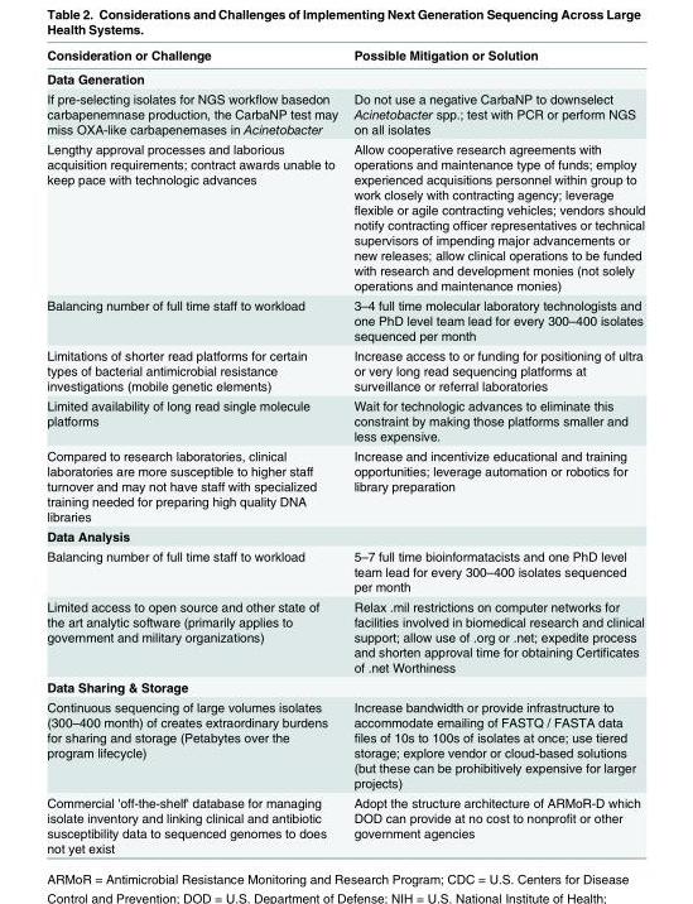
<table><thead><tr><td>Consideration or Challenge</td><td>Possible Mitigation or Solution</td></tr></thead><tbody><tr><td colspan="2">Data Generation</td></tr><tr><td>If pre-selecting isolates for NGS workflow basedon carbapenemnase production, the CarbaNP test may miss OXA-like carbapenemases in Acinetobacter</td><td>Do not use a negative CarbaNP to downselect Acinetobacter spp.; test with PCR or perform NGS on all isolates</td></tr><tr><td>Lengthy approval processes and laborious acquisition requirements; contract awards unable to keep pace with technologic advances</td><td>Allow cooperative research agreements with operations and maintenance type of funds; employ experienced acquisitions personnel within group to work closely with contracting agency; leverage flexible or agile contracting vehicles; vendors should notify contracting officer representatives or technical supervisors of impending major advancements or new releases; allow clinical operations to be funded with research and development monies (not solely operations and maintenance monies)</td></tr><tr><td>Balancing number of full time staff to workload</td><td>3–4 full time molecular laboratory technologists and one PhD level team lead for every 300–400 isolates sequenced per month</td></tr><tr><td>Limitations of shorter read platforms for certain types of bacterial antimicrobial resistance investigations (mobile genetic elements)</td><td>Increase access to or funding for positioning of ultra or very long read sequencing platforms at surveillance or referral laboratories</td></tr><tr><td>Limited availability of long read single molecule platforms</td><td>Wait for technologic advances to eliminate this constraint by making those platforms smaller and less expensive.</td></tr><tr><td>Compared to research laboratories, clinical laboratories are more susceptible to higher staff turnover and may not have staff with specialized training needed for preparing high quality DNA libraries</td><td>Increase and incentivize educational and training opportunities; leverage automation or robotics for library preparation</td></tr><tr><td colspan="2">Data Analysis</td></tr><tr><td>Balancing number of full time staff to workload</td><td>5–7 full time bioinformatacists and one PhD level team lead for every 300–400 isolates sequenced per month</td></tr><tr><td>Limited access to open source and other state of the art analytic software (primarily applies to government and military organizations)</td><td>Relax .mil restrictions on computer networks for facilities involved in biomedical research and clinical support; allow use of .org or .net; expedite process and shorten approval time for obtaining Certificates of .net Worthiness</td></tr><tr><td colspan="2">Data Sharing &amp; Storage</td></tr><tr><td>Continuous sequencing of large volumes isolates (300–400 month) of creates extraordinary burdens for sharing and storage (Petabytes over the program lifecycle)</td><td>Increase bandwidth or provide infrastructure to accommodate emailing of FASTQ / FASTA data files of 10s to 100s of isolates at once; use tiered storage; explore vendor or cloud-based solutions (but these can be prohibitively expensive for larger projects)</td></tr><tr><td>Commercial &#x27;off-the-shelf&#x27; database for managing isolate inventory and linking clinical and antibiotic susceptibility data to sequenced genomes to does not yet exist</td><td>Adopt the structure architecture of ARMoR-D which DOD can provide at no cost to nonprofit or other government agencies</td></tr></tbody></table>